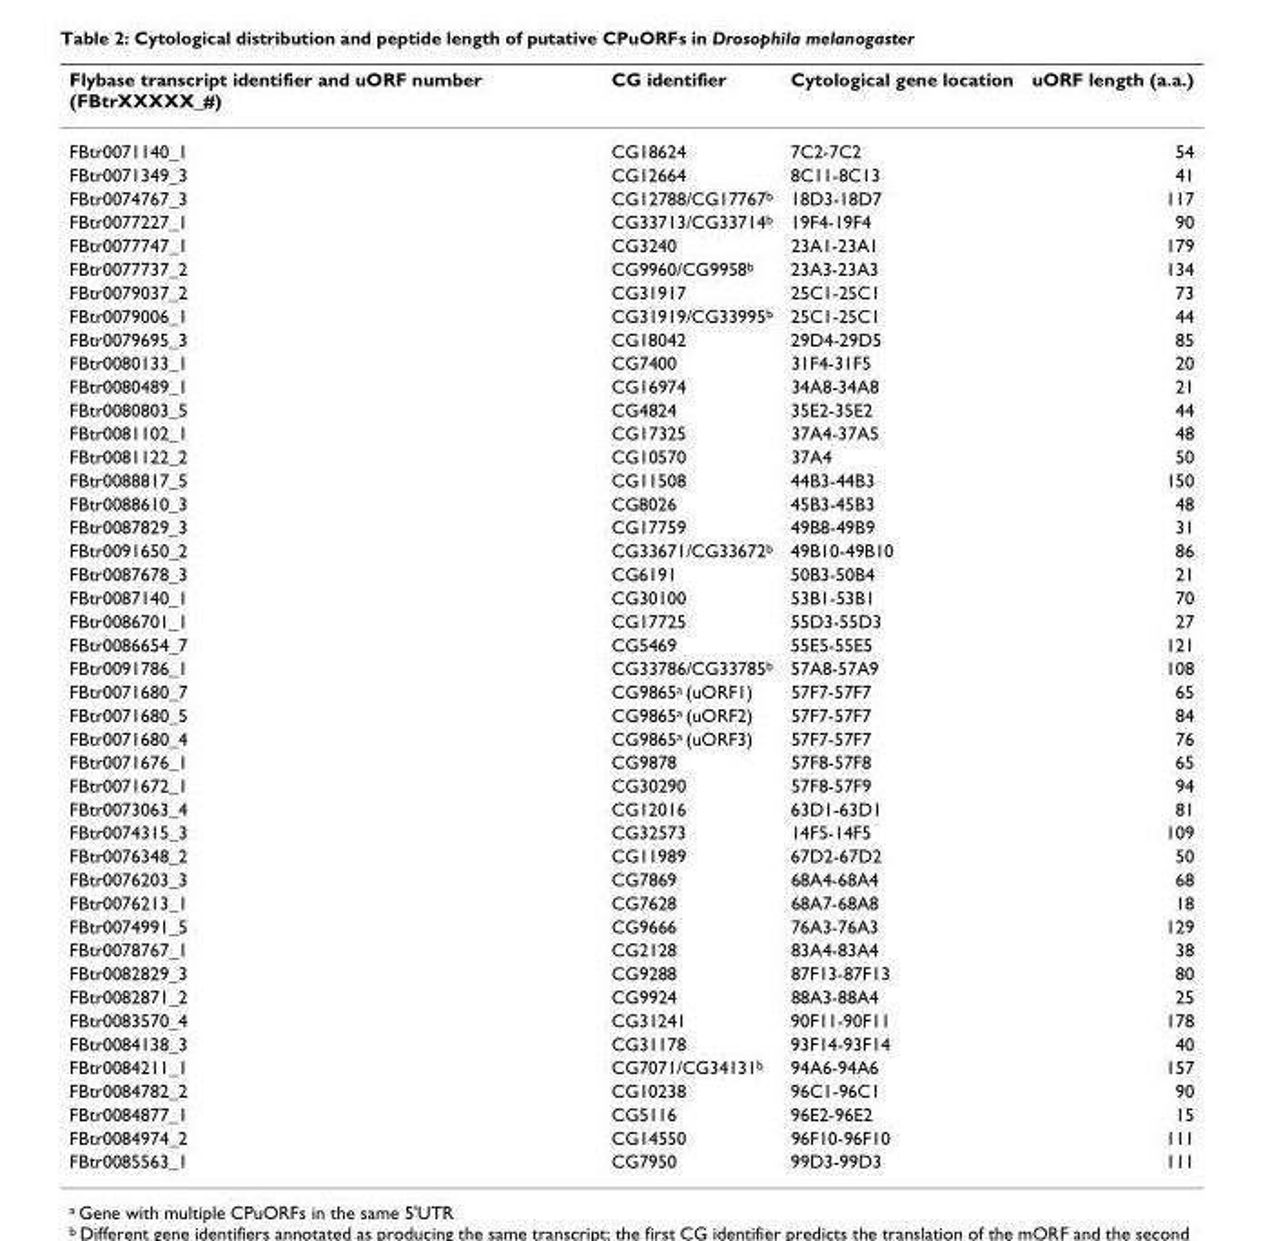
<table><thead><tr><td>Flybase transcript identifier and uORF number (FBtrXXXXX_#)</td><td>CG identifier</td><td>Cytological gene location</td><td>uORF length (a.a.)</td></tr></thead><tbody><tr><td>FBtr0071140_1</td><td>CG18624</td><td>7C2-7C2</td><td>54</td></tr><tr><td>FBtr0071349_3</td><td>CG12664</td><td>8C11-8C13</td><td>41</td></tr><tr><td>FBtr0074767_3</td><td>CG12788/CG17767<sup>b</sup></td><td>18D3-18D7</td><td>117</td></tr><tr><td>FBtr0077227_1</td><td>CG33713/CG33714<sup>b</sup></td><td>19F4-19F4</td><td>90</td></tr><tr><td>FBtr0077747_1</td><td>CG3240</td><td>23A1-23A1</td><td>179</td></tr><tr><td>FBtr0077737_2</td><td>CG9960/CG9958<sup>b</sup></td><td>23A3-23A3</td><td>134</td></tr><tr><td>FBtr0079037_2</td><td>CG31917</td><td>25C1-25C1</td><td>73</td></tr><tr><td>FBtr0079006_1</td><td>CG31919/CG33995<sup>b</sup></td><td>25C1-25C1</td><td>44</td></tr><tr><td>FBtr0079695_3</td><td>CG18042</td><td>29D4-29D5</td><td>85</td></tr><tr><td>FBtr0080133_1</td><td>CG7400</td><td>31F4-31F5</td><td>20</td></tr><tr><td>FBtr0080489_1</td><td>CG16974</td><td>34A8-34A8</td><td>21</td></tr><tr><td>FBtr0080803_5</td><td>CG4824</td><td>35E2-35E2</td><td>44</td></tr><tr><td>FBtr0081102_1</td><td>CG17325</td><td>37A4-37A5</td><td>48</td></tr><tr><td>FBtr0081122_2</td><td>CG10570</td><td>37A4</td><td>50</td></tr><tr><td>FBtr0088817_5</td><td>CG11508</td><td>44B3-44B3</td><td>150</td></tr><tr><td>FBtr0088610_3</td><td>CG8026</td><td>45B3-45B3</td><td>48</td></tr><tr><td>FBtr0087829_3</td><td>CG17759</td><td>49B8-49B9</td><td>31</td></tr><tr><td>FBtr0091650_2</td><td>CG33671/CG33672<sup>b</sup></td><td>49B10-49B10</td><td>86</td></tr><tr><td>FBtr0087678_3</td><td>CG6191</td><td>50B3-50B4</td><td>21</td></tr><tr><td>FBtr0087140_1</td><td>CG30100</td><td>53B1-53B1</td><td>70</td></tr><tr><td>FBtr0086701_1</td><td>CG17725</td><td>55D3-55D3</td><td>27</td></tr><tr><td>FBtr0086654_7</td><td>CG5469</td><td>55E5-55E5</td><td>121</td></tr><tr><td>FBtr0091786_1</td><td>CG33786/CG33785<sup>b</sup></td><td>57A8-57A9</td><td>108</td></tr><tr><td>FBtr0071680_7</td><td>CG9865<sup>a</sup> (uORF1)</td><td>57F7-57F7</td><td>65</td></tr><tr><td>FBtr0071680_5</td><td>CG9865<sup>a</sup> (uORF2)</td><td>57F7-57F7</td><td>84</td></tr><tr><td>FBtr0071680_4</td><td>CG9865<sup>a</sup> (uORF3)</td><td>57F7-57F7</td><td>76</td></tr><tr><td>FBtr0071676_1</td><td>CG9878</td><td>57F8-57F8</td><td>65</td></tr><tr><td>FBtr0071672_1</td><td>CG30290</td><td>57F8-57F9</td><td>94</td></tr><tr><td>FBtr0073063_4</td><td>CG12016</td><td>63D1-63D1</td><td>81</td></tr><tr><td>FBtr0074315_3</td><td>CG32573</td><td>14F5-14F5</td><td>109</td></tr><tr><td>FBtr0076348_2</td><td>CG11989</td><td>67D2-67D2</td><td>50</td></tr><tr><td>FBtr0076203_3</td><td>CG7869</td><td>68A4-68A4</td><td>68</td></tr><tr><td>FBtr0076213_1</td><td>CG7628</td><td>68A7-68A8</td><td>18</td></tr><tr><td>FBtr0074991_5</td><td>CG9666</td><td>76A3-76A3</td><td>129</td></tr><tr><td>FBtr0078767_1</td><td>CG2128</td><td>83A4-83A4</td><td>38</td></tr><tr><td>FBtr0082829_3</td><td>CG9288</td><td>87F13-87F13</td><td>80</td></tr><tr><td>FBtr0082871_2</td><td>CG9924</td><td>88A3-88A4</td><td>25</td></tr><tr><td>FBtr0083570_4</td><td>CG31241</td><td>90F11-90F11</td><td>178</td></tr><tr><td>FBtr0084138_3</td><td>CG31178</td><td>93F14-93F14</td><td>40</td></tr><tr><td>FBtr0084211_1</td><td>CG7071/CG34131<sup>b</sup></td><td>94A6-94A6</td><td>157</td></tr><tr><td>FBtr0084782_2</td><td>CG10238</td><td>96C1-96C1</td><td>90</td></tr><tr><td>FBtr0084877_1</td><td>CG5116</td><td>96E2-96E2</td><td>15</td></tr><tr><td>FBtr0084974_2</td><td>CG14550</td><td>96F10-96F10</td><td>111</td></tr><tr><td>FBtr0085563_1</td><td>CG7950</td><td>99D3-99D3</td><td>111</td></tr></tbody></table>